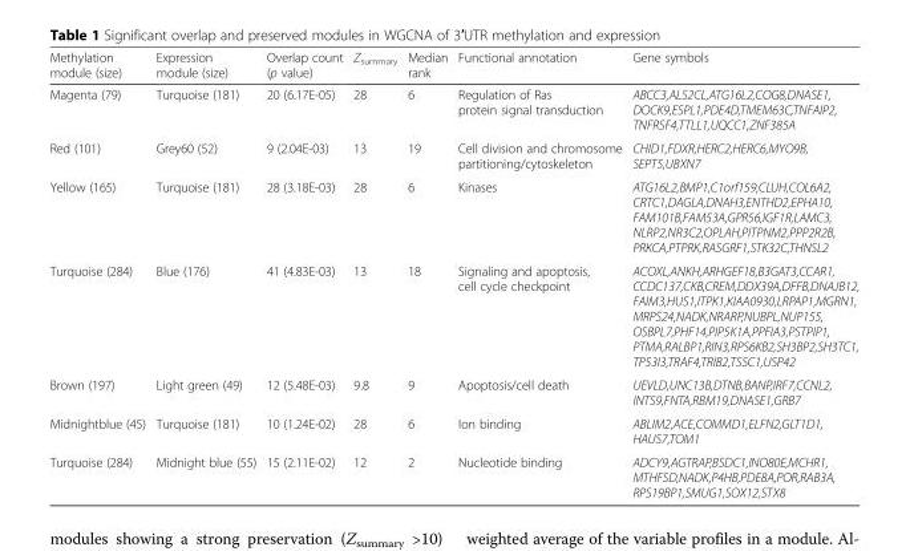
<table><thead><tr><td>Methylation module (size)</td><td>Expression module (size)</td><td>Overlap count (p value)</td><td>Z<sub>summary</sub></td><td>Median rank</td><td>Functional annotation</td><td>Gene symbols</td></tr></thead><tbody><tr><td>Magenta (79)</td><td>Turquoise (181)</td><td>20 (6.17E-05)</td><td>28</td><td>6</td><td>Regulation of Ras protein signal transduction</td><td>ABCC3,ALS2CL,ATG16L2,COG8,DNASE1, DOCK9,ESPL1,PDE4D,TMEM63C,TNFAIP2, TNFRSF4,TTLL1,UQCC1,ZNF385A</td></tr><tr><td>Red (101)</td><td>Grey60 (52)</td><td>9 (2.04E-03)</td><td>13</td><td>19</td><td>Cell division and chromosome partitioning/cytoskeleton</td><td>CHID1,FDXR,HERC2,HERC6,MYO9B, SEPT5,UBXN7</td></tr><tr><td>Yellow (165)</td><td>Turquoise (181)</td><td>28 (3.18E-03)</td><td>28</td><td>6</td><td>Kinases</td><td>ATG16L2,BMP1,C1orf159,CLUH,COL6A2, CRTC1,DAGLA,DNAH3,ENTHD2,EPHA10, FAM101B,FAM53A,GPR56,IGF1R,LAMC3, NLRP2,NR3C2,OPLAH,PITPNM2,PPP2R2B, PRKCA,PTPRK,RASGRF1,STK32C,THNSL2</td></tr><tr><td>Turquoise (284)</td><td>Blue (176)</td><td>41 (4.83E-03)</td><td>13</td><td>18</td><td>Signaling and apoptosis, cell cycle checkpoint</td><td>ACOXL,ANKH,ARHGEF18,B3GAT3,CCAR1, CCDC137,CKB,CREM,DDX39A,DFFB,DNAJB12, FAIM3,HUS1,ITPK1,KIAA0930,LRPAP1,MGRN1, MRPS24,NADK,NRARP,NUBPL,NUP155, OSBPL7,PHF14,PIP5K1A,PPFIA3,PSTPIP1, PTMA,RALBP1,RIN3,RPS6KB2,SH3BP2,SH3TC1, TP53I3,TRAF4,TRIB2,TSSC1,USP42</td></tr><tr><td>Brown (197)</td><td>Light green (49)</td><td>12 (5.48E-03)</td><td>9.8</td><td>9</td><td>Apoptosis/cell death</td><td>UEVLD,UNC13B,DTNB,BANP,IRF7,CCNL2, INTS9,FNTA,RBM19,DNASE1,GRB7</td></tr><tr><td>Midnightblue (45)</td><td>Turquoise (181)</td><td>10 (1.24E-02)</td><td>28</td><td>6</td><td>Ion binding</td><td>ABLIM2,ACE,COMMD1,ELFN2,GLT1D1, HAUS7,TOM1</td></tr><tr><td>Turquoise (284)</td><td>Midnight blue (55)</td><td>15 (2.11E-02)</td><td>12</td><td>2</td><td>Nucleotide binding</td><td>ADCY9,AGTRAP,BSDC1,INO80E,MCHR1, MTHFSD,NADK,P4HB,PDE8A,POR,RAB3A, RPS19BP1,SMUG1,SOX12,STX8</td></tr></tbody></table>